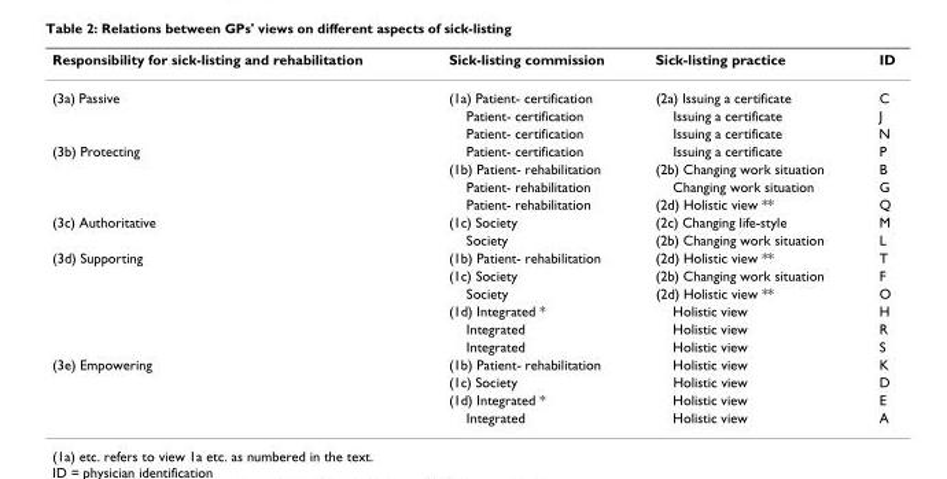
<table><thead><tr><td>Responsibility for sick-listing and rehabilitation</td><td>Sick-listing commission</td><td>Sick-listing practice</td><td>ID</td></tr></thead><tbody><tr><td rowspan="3">(3a) Passive</td><td>(1a) Patient- certification</td><td>(2a) Issuing a certificate</td><td>C</td></tr><tr><td>Patient- certification</td><td>Issuing a certificate</td><td>J</td></tr><tr><td>Patient- certification</td><td>Issuing a certificate</td><td>N</td></tr><tr><td rowspan="4">(3b) Protecting</td><td>Patient- certification</td><td>Issuing a certificate</td><td>P</td></tr><tr><td>(1b) Patient- rehabilitation</td><td>(2b) Changing work situation</td><td>B</td></tr><tr><td>Patient- rehabilitation</td><td>Changing work situation</td><td>G</td></tr><tr><td>Patient- rehabilitation</td><td>(2d) Holistic view **</td><td>Q</td></tr><tr><td rowspan="2">(3c) Authoritative</td><td>(1c) Society</td><td>(2c) Changing life-style</td><td>M</td></tr><tr><td>Society</td><td>(2b) Changing work situation</td><td>L</td></tr><tr><td rowspan="6">(3d) Supporting</td><td>(1b) Patient- rehabilitation</td><td>(2d) Holistic view **</td><td>T</td></tr><tr><td>(1c) Society</td><td>(2b) Changing work situation</td><td>F</td></tr><tr><td>Society</td><td>(2d) Holistic view **</td><td>O</td></tr><tr><td>(1d) Integrated *</td><td>Holistic view</td><td>H</td></tr><tr><td>Integrated</td><td>Holistic view</td><td>R</td></tr><tr><td>Integrated</td><td>Holistic view</td><td>S</td></tr><tr><td rowspan="4">(3e) Empowering</td><td>(1b) Patient- rehabilitation</td><td>Holistic view</td><td>K</td></tr><tr><td>(1c) Society</td><td>Holistic view</td><td>D</td></tr><tr><td>(1d) Integrated *</td><td>Holistic view</td><td>E</td></tr><tr><td>Integrated</td><td>Holistic view</td><td>A</td></tr></tbody></table>